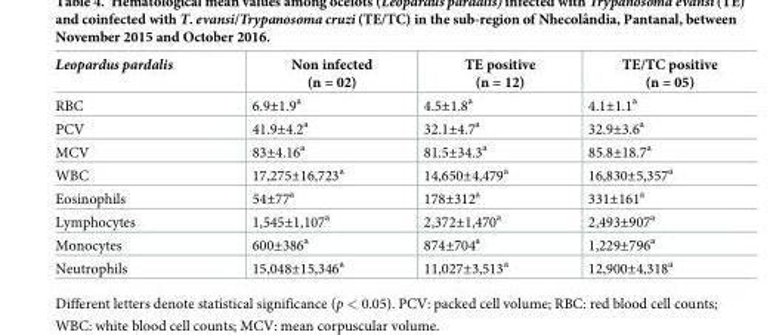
<table><thead><tr><td>Leopardus pardalis</td><td>Non infected (n = 02)</td><td>TE positive (n = 12)</td><td>TE/TC positive (n = 05)</td></tr></thead><tbody><tr><td>RBC</td><td>6.9±1.9<sup>a</sup></td><td>4.5±1.8<sup>a</sup></td><td>4.1±1.1<sup>a</sup></td></tr><tr><td>PCV</td><td>41.9±4.2<sup>a</sup></td><td>32.1±4.7<sup>a</sup></td><td>32.9±3.6<sup>a</sup></td></tr><tr><td>MCV</td><td>83±4.16<sup>a</sup></td><td>81.5±34.3<sup>a</sup></td><td>85.8±18.7<sup>a</sup></td></tr><tr><td>WBC</td><td>17,275±16,723<sup>a</sup></td><td>14,650±4,479<sup>a</sup></td><td>16,830±5,357<sup>a</sup></td></tr><tr><td>Eosinophils</td><td>54±77<sup>a</sup></td><td>178±312<sup>a</sup></td><td>331±161<sup>a</sup></td></tr><tr><td>Lymphocytes</td><td>1,545±1,107<sup>a</sup></td><td>2,372±1,470<sup>a</sup></td><td>2,493±907<sup>a</sup></td></tr><tr><td>Monocytes</td><td>600±386<sup>a</sup></td><td>874±704<sup>a</sup></td><td>1,229±796<sup>a</sup></td></tr><tr><td>Neutrophils</td><td>15,048±15,346<sup>a</sup></td><td>11,027±3,513<sup>a</sup></td><td>12,900±4,318<sup>a</sup></td></tr></tbody></table>